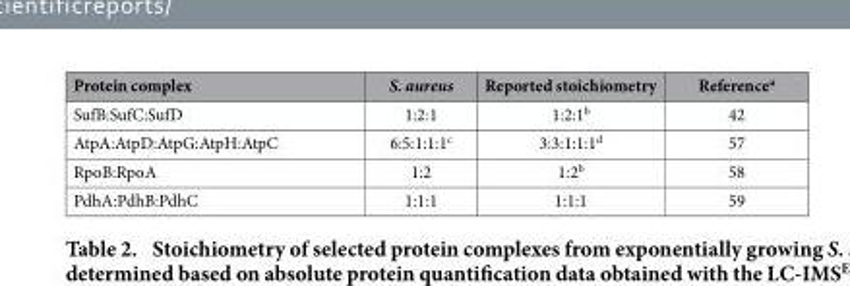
<table><thead><tr><td>Protein complex</td><td>S. aureus</td><td>Reported stoichiometry</td><td>Reference<sup>a</sup></td></tr></thead><tbody><tr><td>SufB:SufC:SufD</td><td>1:2:1</td><td>1:2:1<sup>b</sup></td><td>42</td></tr><tr><td>AtpA:AtpD:AtpG:AtpH:AtpC</td><td>6:5:1:1:1<sup>c</sup></td><td>3:3:1:1:1<sup>d</sup></td><td>57</td></tr><tr><td>RpoB:RpoA</td><td>1:2</td><td>1:2<sup>b</sup></td><td>58</td></tr><tr><td>PdhA:PdhB:PdhC</td><td>1:1:1</td><td>1:1:1</td><td>59</td></tr></tbody></table>